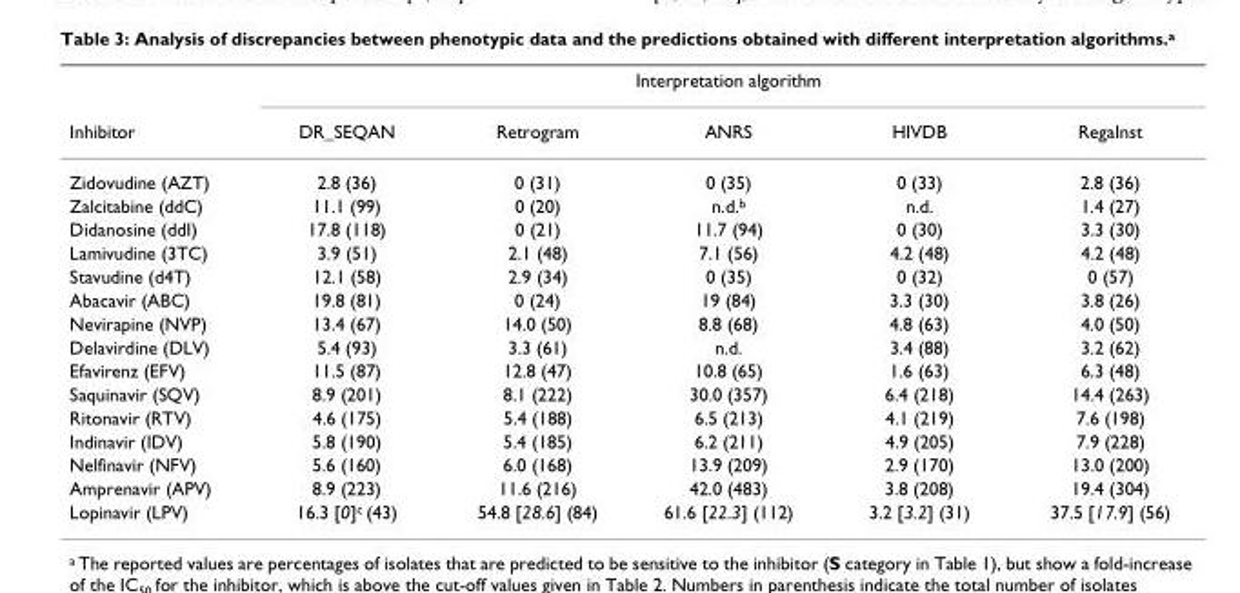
<table><thead><tr><td rowspan="2">Inhibitor</td><td colspan="5">Interpretation algorithm</td></tr><tr><td>DR_SEQAN</td><td>Retrogram</td><td>ANRS</td><td>HIVDB</td><td>RegaInst</td></tr></thead><tbody><tr><td>Zidovudine (AZT)</td><td>2.8 (36)</td><td>0 (31)</td><td>0 (35)</td><td>0 (33)</td><td>2.8 (36)</td></tr><tr><td>Zalcitabine (ddC)</td><td>11.1 (99)</td><td>0 (20)</td><td>n.d.<sup>b</sup></td><td>n.d.</td><td>1.4 (27)</td></tr><tr><td>Didanosine (ddI)</td><td>17.8 (118)</td><td>0 (21)</td><td>11.7 (94)</td><td>0 (30)</td><td>3.3 (30)</td></tr><tr><td>Lamivudine (3TC)</td><td>3.9 (51)</td><td>2.1 (48)</td><td>7.1 (56)</td><td>4.2 (48)</td><td>4.2 (48)</td></tr><tr><td>Stavudine (d4T)</td><td>12.1 (58)</td><td>2.9 (34)</td><td>0 (35)</td><td>0 (32)</td><td>0 (57)</td></tr><tr><td>Abacavir (ABC)</td><td>19.8 (81)</td><td>0 (24)</td><td>19 (84)</td><td>3.3 (30)</td><td>3.8 (26)</td></tr><tr><td>Nevirapine (NVP)</td><td>13.4 (67)</td><td>14.0 (50)</td><td>8.8 (68)</td><td>4.8 (63)</td><td>4.0 (50)</td></tr><tr><td>Delavirdine (DLV)</td><td>5.4 (93)</td><td>3.3 (61)</td><td>n.d.</td><td>3.4 (88)</td><td>3.2 (62)</td></tr><tr><td>Efavirenz (EFV)</td><td>11.5 (87)</td><td>12.8 (47)</td><td>10.8 (65)</td><td>1.6 (63)</td><td>6.3 (48)</td></tr><tr><td>Saquinavir (SQV)</td><td>8.9 (201)</td><td>8.1 (222)</td><td>30.0 (357)</td><td>6.4 (218)</td><td>14.4 (263)</td></tr><tr><td>Ritonavir (RTV)</td><td>4.6 (175)</td><td>5.4 (188)</td><td>6.5 (213)</td><td>4.1 (219)</td><td>7.6 (198)</td></tr><tr><td>Indinavir (IDV)</td><td>5.8 (190)</td><td>5.4 (185)</td><td>6.2 (211)</td><td>4.9 (205)</td><td>7.9 (228)</td></tr><tr><td>Nelfinavir (NFV)</td><td>5.6 (160)</td><td>6.0 (168)</td><td>13.9 (209)</td><td>2.9 (170)</td><td>13.0 (200)</td></tr><tr><td>Amprenavir (APV)</td><td>8.9 (223)</td><td>11.6 (216)</td><td>42.0 (483)</td><td>3.8 (208)</td><td>19.4 (304)</td></tr><tr><td>Lopinavir (LPV)</td><td>16.3 [0]<sup>c</sup> (43)</td><td>54.8 [28.6] (84)</td><td>61.6 [22.3] (112)</td><td>3.2 [3.2] (31)</td><td>37.5 [17.9] (56)</td></tr></tbody></table>